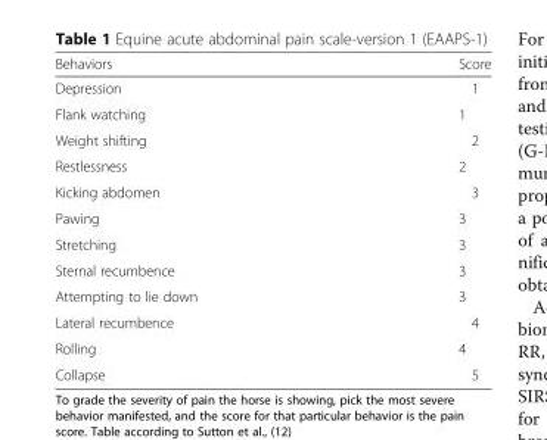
<table><thead><tr><td>Behaviors</td><td>Score</td></tr></thead><tbody><tr><td>Depression</td><td>1</td></tr><tr><td>Flank watching</td><td>1</td></tr><tr><td>Weight shifting</td><td>2</td></tr><tr><td>Restlessness</td><td>2</td></tr><tr><td>Kicking abdomen</td><td>3</td></tr><tr><td>Pawing</td><td>3</td></tr><tr><td>Stretching</td><td>3</td></tr><tr><td>Sternal recumbence</td><td>3</td></tr><tr><td>Attempting to lie down</td><td>3</td></tr><tr><td>Lateral recumbence</td><td>4</td></tr><tr><td>Rolling</td><td>4</td></tr><tr><td>Collapse</td><td>5</td></tr></tbody></table>